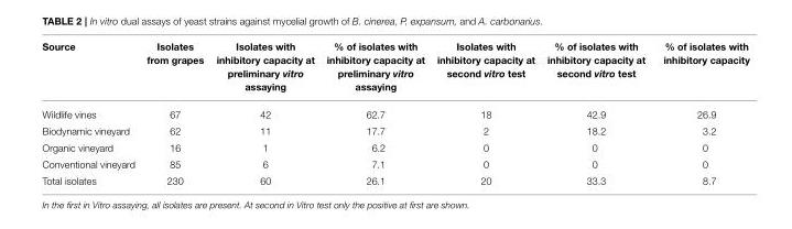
<table><thead><tr><td>Source</td><td>Isolates from grapes</td><td>Isolates with inhibitory capacity at preliminary vitro assaying</td><td>% of isolates with inhibitory capacity at preliminary vitro assaying</td><td>Isolates with inhibitory capacity at second vitro test</td><td>% of isolates with inhibitory capacity at second vitro test</td><td>% of isolates with inhibitory capacity</td></tr></thead><tbody><tr><td>Wildlife vines</td><td>67</td><td>42</td><td>62.7</td><td>18</td><td>42.9</td><td>26.9</td></tr><tr><td>Biodynamic vineyard</td><td>62</td><td>11</td><td>17.7</td><td>2</td><td>18.2</td><td>3.2</td></tr><tr><td>Organic vineyard</td><td>16</td><td>1</td><td>6.2</td><td>0</td><td>0</td><td>0</td></tr><tr><td>Conventional vineyard</td><td>85</td><td>6</td><td>7.1</td><td>0</td><td>0</td><td>0</td></tr><tr><td>Total isolates</td><td>230</td><td>60</td><td>26.1</td><td>20</td><td>33.3</td><td>8.7</td></tr></tbody></table>